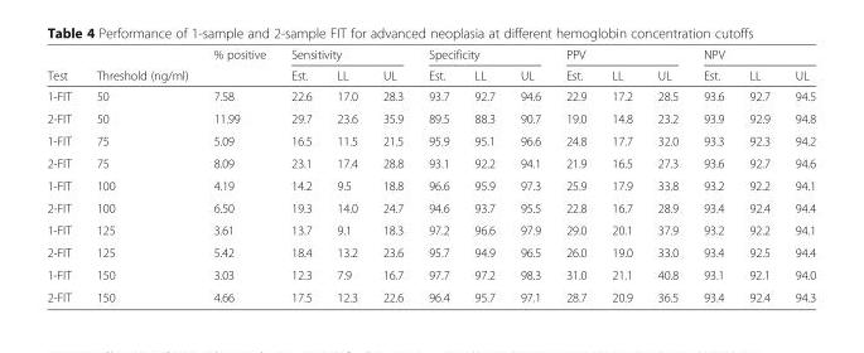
<table><thead><tr><td rowspan="2">Test</td><td rowspan="2">Threshold (ng/ml)</td><td rowspan="2">% positive</td><td colspan="3">Sensitivity</td><td colspan="3">Specificity</td><td colspan="3">PPV</td><td colspan="3">NPV</td></tr><tr><td>Est.</td><td>LL</td><td>UL</td><td>Est.</td><td>LL</td><td>UL</td><td>Est.</td><td>LL</td><td>UL</td><td>Est.</td><td>LL</td><td>UL</td></tr></thead><tbody><tr><td>1-FIT</td><td>50</td><td>7.58</td><td>22.6</td><td>17.0</td><td>28.3</td><td>93.7</td><td>92.7</td><td>94.6</td><td>22.9</td><td>17.2</td><td>28.5</td><td>93.6</td><td>92.7</td><td>94.5</td></tr><tr><td>2-FIT</td><td>50</td><td>11.99</td><td>29.7</td><td>23.6</td><td>35.9</td><td>89.5</td><td>88.3</td><td>90.7</td><td>19.0</td><td>14.8</td><td>23.2</td><td>93.9</td><td>92.9</td><td>94.8</td></tr><tr><td>1-FIT</td><td>75</td><td>5.09</td><td>16.5</td><td>11.5</td><td>21.5</td><td>95.9</td><td>95.1</td><td>96.6</td><td>24.8</td><td>17.7</td><td>32.0</td><td>93.3</td><td>92.3</td><td>94.2</td></tr><tr><td>2-FIT</td><td>75</td><td>8.09</td><td>23.1</td><td>17.4</td><td>28.8</td><td>93.1</td><td>92.2</td><td>94.1</td><td>21.9</td><td>16.5</td><td>27.3</td><td>93.6</td><td>92.7</td><td>94.6</td></tr><tr><td>1-FIT</td><td>100</td><td>4.19</td><td>14.2</td><td>9.5</td><td>18.8</td><td>96.6</td><td>95.9</td><td>97.3</td><td>25.9</td><td>17.9</td><td>33.8</td><td>93.2</td><td>92.2</td><td>94.1</td></tr><tr><td>2-FIT</td><td>100</td><td>6.50</td><td>19.3</td><td>14.0</td><td>24.7</td><td>94.6</td><td>93.7</td><td>95.5</td><td>22.8</td><td>16.7</td><td>28.9</td><td>93.4</td><td>92.4</td><td>94.4</td></tr><tr><td>1-FIT</td><td>125</td><td>3.61</td><td>13.7</td><td>9.1</td><td>18.3</td><td>97.2</td><td>96.6</td><td>97.9</td><td>29.0</td><td>20.1</td><td>37.9</td><td>93.2</td><td>92.2</td><td>94.1</td></tr><tr><td>2-FIT</td><td>125</td><td>5.42</td><td>18.4</td><td>13.2</td><td>23.6</td><td>95.7</td><td>94.9</td><td>96.5</td><td>26.0</td><td>19.0</td><td>33.0</td><td>93.4</td><td>92.5</td><td>94.4</td></tr><tr><td>1-FIT</td><td>150</td><td>3.03</td><td>12.3</td><td>7.9</td><td>16.7</td><td>97.7</td><td>97.2</td><td>98.3</td><td>31.0</td><td>21.1</td><td>40.8</td><td>93.1</td><td>92.1</td><td>94.0</td></tr><tr><td>2-FIT</td><td>150</td><td>4.66</td><td>17.5</td><td>12.3</td><td>22.6</td><td>96.4</td><td>95.7</td><td>97.1</td><td>28.7</td><td>20.9</td><td>36.5</td><td>93.4</td><td>92.4</td><td>94.3</td></tr></tbody></table>